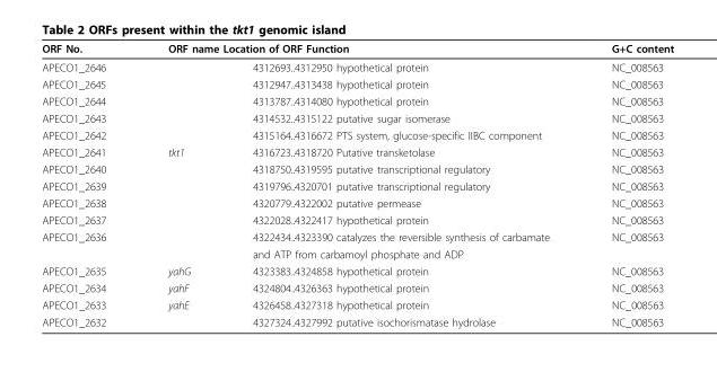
<table><thead><tr><td rowspan="2">ORF No. APECO1_2646</td><td colspan="2">ORF name Location of ORF Function</td><td rowspan="2">G+C content NC_008563</td></tr><tr><td></td><td>4312693..4312950 hypothetical protein</td></tr></thead><tbody><tr><td>APECO1_2645</td><td></td><td>4312947..4313438 hypothetical protein</td><td>NC_008563</td></tr><tr><td>APECO1_2644</td><td></td><td>4313787..4314080 hypothetical protein</td><td>NC_008563</td></tr><tr><td>APECO1_2643</td><td></td><td>4314532..4315122 putative sugar isomerase</td><td>NC_008563</td></tr><tr><td>APECO1_2642</td><td></td><td>4315164..4316672 PTS system, glucose-specific IIBC component</td><td>NC_008563</td></tr><tr><td>APECO1_2641</td><td>tkt1</td><td>4316723..4318720 Putative transketolase</td><td>NC_008563</td></tr><tr><td>APECO1_2640</td><td></td><td>4318750..4319595 putative transcriptional regulatory</td><td>NC_008563</td></tr><tr><td>APECO1_2639</td><td></td><td>4319796..4320701 putative transcriptional regulatory</td><td>NC_008563</td></tr><tr><td>APECO1_2638</td><td></td><td>4320779..4322002 putative permease</td><td>NC_008563</td></tr><tr><td>APECO1_2637</td><td></td><td>4322028..4322417 hypothetical protein</td><td>NC_008563</td></tr><tr><td rowspan="2">APECO1_2636</td><td></td><td>4322434..4323390 catalyzes the reversible synthesis of carbamate</td><td>NC_008563</td></tr><tr><td></td><td>and ATP from carbamoyl phosphate and ADP</td><td></td></tr><tr><td>APECO1_2635</td><td>yahG</td><td>4323383..4324858 hypothetical protein</td><td>NC_008563</td></tr><tr><td>APECO1_2634</td><td>yahF</td><td>4324804..4326363 hypothetical protein</td><td>NC_008563</td></tr><tr><td>APECO1_2633</td><td>yahE</td><td>4326458..4327318 hypothetical protein</td><td>NC_008563</td></tr><tr><td>APECO1_2632</td><td></td><td>4327324..4327992 putative isochorismatase hydrolase</td><td>NC_008563</td></tr></tbody></table>